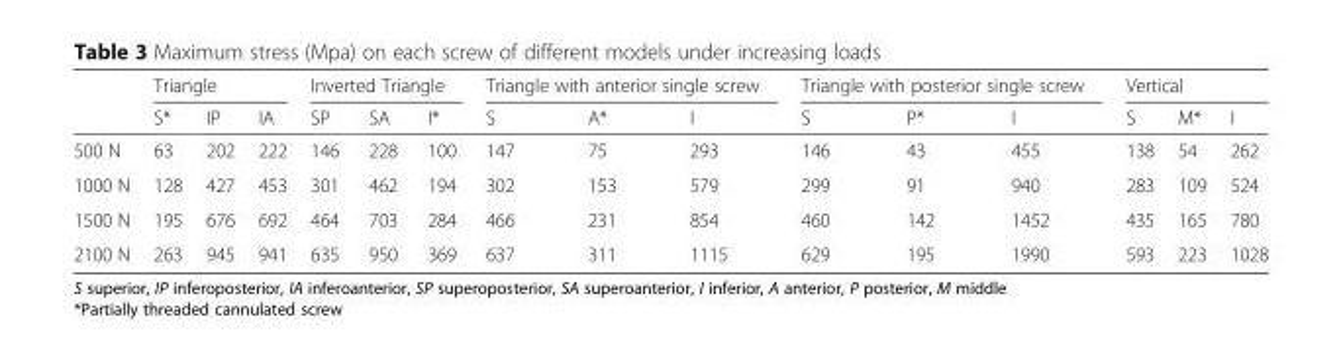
<table><thead><tr><td rowspan="2"></td><td colspan="3">Triangle</td><td colspan="3">Inverted Triangle</td><td colspan="3">Triangle with anterior single screw</td><td colspan="3">Triangle with posterior single screw</td><td colspan="3">Vertical</td></tr><tr><td>S*</td><td>IP</td><td>IA</td><td>SP</td><td>SA</td><td>I*</td><td>S</td><td>A*</td><td>I</td><td>S</td><td>P*</td><td>I</td><td>S</td><td>M*</td><td>I</td></tr></thead><tbody><tr><td>500 N</td><td>63</td><td>202</td><td>222</td><td>146</td><td>228</td><td>100</td><td>147</td><td>75</td><td>293</td><td>146</td><td>43</td><td>455</td><td>138</td><td>54</td><td>262</td></tr><tr><td>1000 N</td><td>128</td><td>427</td><td>453</td><td>301</td><td>462</td><td>194</td><td>302</td><td>153</td><td>579</td><td>299</td><td>91</td><td>940</td><td>283</td><td>109</td><td>524</td></tr><tr><td>1500 N</td><td>195</td><td>676</td><td>692</td><td>464</td><td>703</td><td>284</td><td>466</td><td>231</td><td>854</td><td>460</td><td>142</td><td>1452</td><td>435</td><td>165</td><td>780</td></tr><tr><td>2100 N</td><td>263</td><td>945</td><td>941</td><td>635</td><td>950</td><td>369</td><td>637</td><td>311</td><td>1115</td><td>629</td><td>195</td><td>1990</td><td>593</td><td>223</td><td>1028</td></tr></tbody></table>